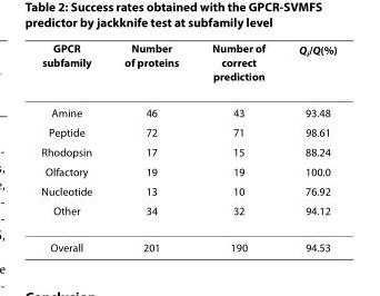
<table><thead><tr><td>GPCR subfamily</td><td>Number of proteins</td><td>Number of correct prediction</td><td>Q<sub>i</sub>/Q(%)</td></tr></thead><tbody><tr><td>Amine</td><td>46</td><td>43</td><td>93.48</td></tr><tr><td>Peptide</td><td>72</td><td>71</td><td>98.61</td></tr><tr><td>Rhodopsin</td><td>17</td><td>15</td><td>88.24</td></tr><tr><td>Olfactory</td><td>19</td><td>19</td><td>100.0</td></tr><tr><td>Nucleotide</td><td>13</td><td>10</td><td>76.92</td></tr><tr><td>Other</td><td>34</td><td>32</td><td>94.12</td></tr><tr><td>Overall</td><td>201</td><td>190</td><td>94.53</td></tr></tbody></table>